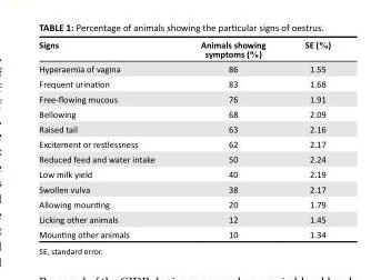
<table><thead><tr><td>Signs</td><td>Animals showing symptoms (%)</td><td>SE (%)</td></tr></thead><tbody><tr><td>Hyperaemia of vagina</td><td>86</td><td>1.55</td></tr><tr><td>Frequent urination</td><td>83</td><td>1.68</td></tr><tr><td>Free-flowing mucous</td><td>76</td><td>1.91</td></tr><tr><td>Bellowing</td><td>68</td><td>2.09</td></tr><tr><td>Raised tail</td><td>63</td><td>2.16</td></tr><tr><td>Excitement or restlessness</td><td>62</td><td>2.17</td></tr><tr><td>Reduced feed and water intake</td><td>50</td><td>2.24</td></tr><tr><td>Low milk yield</td><td>40</td><td>2.19</td></tr><tr><td>Swollen vulva</td><td>38</td><td>2.17</td></tr><tr><td>Allowing mounting</td><td>20</td><td>1.79</td></tr><tr><td>Licking other animals</td><td>12</td><td>1.45</td></tr><tr><td>Mounting other animals</td><td>10</td><td>1.34</td></tr></tbody></table>